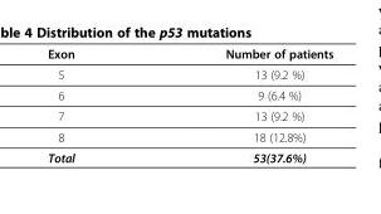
<table><thead><tr><td>Exon</td><td>Number of patients</td></tr></thead><tbody><tr><td>5</td><td>13 (9.2 %)</td></tr><tr><td>6</td><td>9 (6.4 %)</td></tr><tr><td>7</td><td>13 (9.2 %)</td></tr><tr><td>8</td><td>18 (12.8%)</td></tr><tr><td>Total</td><td>53(37.6%)</td></tr></tbody></table>